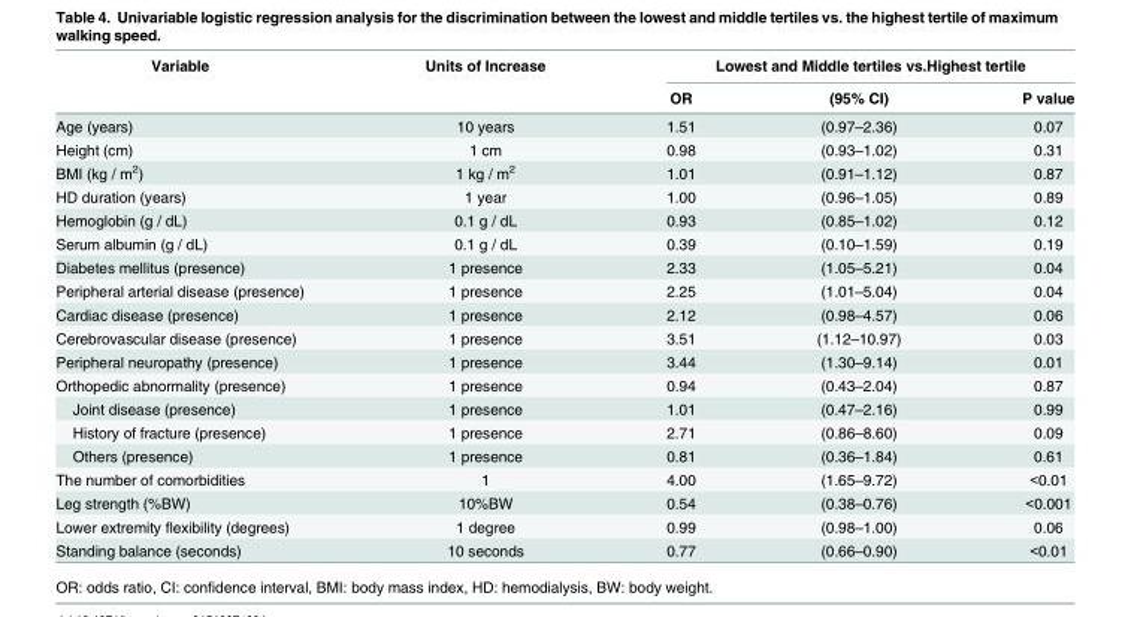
<table><thead><tr><td rowspan="2">Variable</td><td rowspan="2">Units of Increase</td><td colspan="3">Lowest and Middle tertiles vs.Highest tertile</td></tr><tr><td>OR</td><td>(95% CI)</td><td>P value</td></tr></thead><tbody><tr><td>Age (years)</td><td>10 years</td><td>1.51</td><td>(0.97–2.36)</td><td>0.07</td></tr><tr><td>Height (cm)</td><td>1 cm</td><td>0.98</td><td>(0.93–1.02)</td><td>0.31</td></tr><tr><td>BMI (kg / m<sup>2</sup>)</td><td>1 kg / m<sup>2</sup></td><td>1.01</td><td>(0.91–1.12)</td><td>0.87</td></tr><tr><td>HD duration (years)</td><td>1 year</td><td>1.00</td><td>(0.96–1.05)</td><td>0.89</td></tr><tr><td>Hemoglobin (g / dL)</td><td>0.1 g / dL</td><td>0.93</td><td>(0.85–1.02)</td><td>0.12</td></tr><tr><td>Serum albumin (g / dL)</td><td>0.1 g / dL</td><td>0.39</td><td>(0.10–1.59)</td><td>0.19</td></tr><tr><td>Diabetes mellitus (presence)</td><td>1 presence</td><td>2.33</td><td>(1.05–5.21)</td><td>0.04</td></tr><tr><td>Peripheral arterial disease (presence)</td><td>1 presence</td><td>2.25</td><td>(1.01–5.04)</td><td>0.04</td></tr><tr><td>Cardiac disease (presence)</td><td>1 presence</td><td>2.12</td><td>(0.98–4.57)</td><td>0.06</td></tr><tr><td>Cerebrovascular disease (presence)</td><td>1 presence</td><td>3.51</td><td>(1.12–10.97)</td><td>0.03</td></tr><tr><td>Peripheral neuropathy (presence)</td><td>1 presence</td><td>3.44</td><td>(1.30–9.14)</td><td>0.01</td></tr><tr><td>Orthopedic abnormality (presence)</td><td>1 presence</td><td>0.94</td><td>(0.43–2.04)</td><td>0.87</td></tr><tr><td>Joint disease (presence)</td><td>1 presence</td><td>1.01</td><td>(0.47–2.16)</td><td>0.99</td></tr><tr><td>History of fracture (presence)</td><td>1 presence</td><td>2.71</td><td>(0.86–8.60)</td><td>0.09</td></tr><tr><td>Others (presence)</td><td>1 presence</td><td>0.81</td><td>(0.36–1.84)</td><td>0.61</td></tr><tr><td>The number of comorbidities</td><td>1</td><td>4.00</td><td>(1.65–9.72)</td><td>&lt;0.01</td></tr><tr><td>Leg strength (%BW)</td><td>10%BW</td><td>0.54</td><td>(0.38–0.76)</td><td>&lt;0.001</td></tr><tr><td>Lower extremity flexibility (degrees)</td><td>1 degree</td><td>0.99</td><td>(0.98–1.00)</td><td>0.06</td></tr><tr><td>Standing balance (seconds)</td><td>10 seconds</td><td>0.77</td><td>(0.66–0.90)</td><td>&lt;0.01</td></tr></tbody></table>